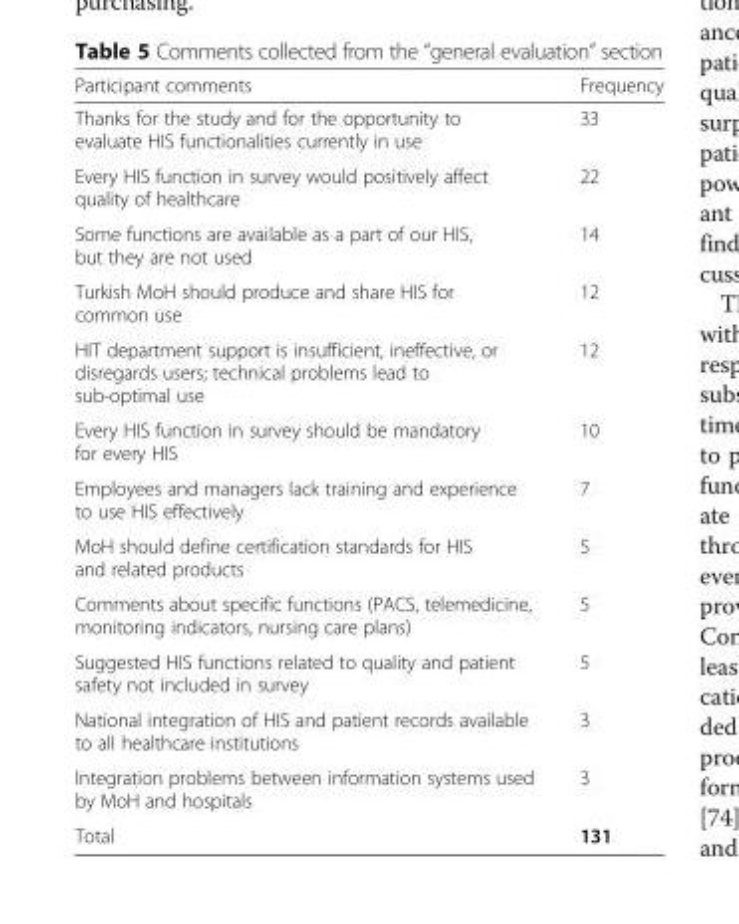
<table><thead><tr><td>Participant comments</td><td>Frequency</td></tr></thead><tbody><tr><td>Thanks for the study and for the opportunity to evaluate HIS functionalities currently in use</td><td>33</td></tr><tr><td>Every HIS function in survey would positively affect quality of healthcare</td><td>22</td></tr><tr><td>Some functions are available as a part of our HIS, but they are not used</td><td>14</td></tr><tr><td>Turkish MoH should produce and share HIS for common use</td><td>12</td></tr><tr><td>HIT department support is insufficient, ineffective, or disregards users; technical problems lead to sub-optimal use</td><td>12</td></tr><tr><td>Every HIS function in survey should be mandatory for every HIS</td><td>10</td></tr><tr><td>Employees and managers lack training and experience to use HIS effectively</td><td>7</td></tr><tr><td>MoH should define certification standards for HIS and related products</td><td>5</td></tr><tr><td>Comments about specific functions (PACS, telemedicine, monitoring indicators, nursing care plans)</td><td>5</td></tr><tr><td>Suggested HIS functions related to quality and patient safety not included in survey</td><td>5</td></tr><tr><td>National integration of HIS and patient records available to all healthcare institutions</td><td>3</td></tr><tr><td>Integration problems between information systems used by MoH and hospitals</td><td>3</td></tr><tr><td>Total</td><td>131</td></tr></tbody></table>